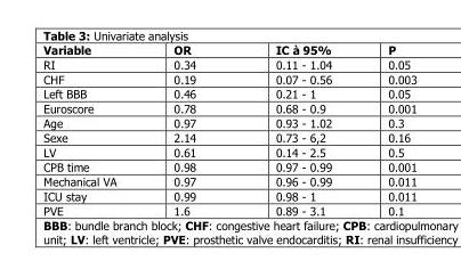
<table><thead><tr><td>Variable</td><td>OR</td><td>IC à 95%</td><td>P</td></tr></thead><tbody><tr><td>RI</td><td>0.34</td><td>0.11 - 1.04</td><td>0.05</td></tr><tr><td>CHF</td><td>0.19</td><td>0.07 - 0.56</td><td>0.003</td></tr><tr><td>Left BBB</td><td>0.46</td><td>0.21 - 1</td><td>0.05</td></tr><tr><td>Euroscore</td><td>0.78</td><td>0.68 - 0.9</td><td>0.001</td></tr><tr><td>Age</td><td>0.97</td><td>0.93 - 1.02</td><td>0.3</td></tr><tr><td>Sexe</td><td>2.14</td><td>0.73 - 6,2</td><td>0.16</td></tr><tr><td>LV</td><td>0.61</td><td>0.14 - 2.5</td><td>0.5</td></tr><tr><td>CPB time</td><td>0.98</td><td>0.97 - 0.99</td><td>0.001</td></tr><tr><td>Mechanical VA</td><td>0.97</td><td>0.96 - 0.99</td><td>0.011</td></tr><tr><td>ICU stay</td><td>0.99</td><td>0.98 - 1</td><td>0.011</td></tr><tr><td>PVE</td><td>1.6</td><td>0.89 - 3.1</td><td>0.1</td></tr></tbody></table>